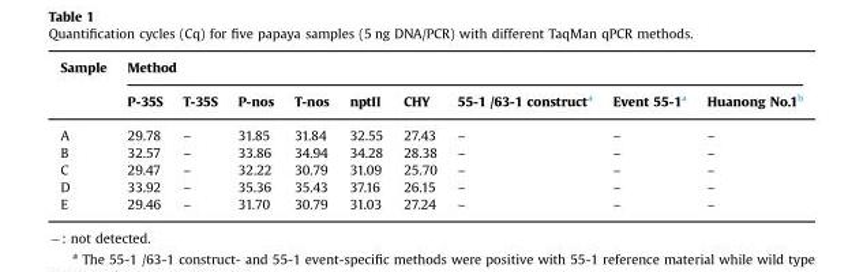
<table><thead><tr><td rowspan="2">Sample</td><td colspan="9">Method</td></tr><tr><td>P-35S</td><td>T-35S</td><td>P-nos</td><td>T-nos</td><td>nptII</td><td>CHY</td><td>55-1 /63-1 construct<sup>a</sup></td><td>Event 55-1<sup>a</sup></td><td>Huanong No.1<sup>b</sup></td></tr></thead><tbody><tr><td>A</td><td>29.78</td><td>–</td><td>31.85</td><td>31.84</td><td>32.55</td><td>27.43</td><td>–</td><td>–</td><td>–</td></tr><tr><td>B</td><td>32.57</td><td>–</td><td>33.86</td><td>34.94</td><td>34.28</td><td>28.38</td><td>–</td><td>–</td><td>–</td></tr><tr><td>C</td><td>29.47</td><td>–</td><td>32.22</td><td>30.79</td><td>31.09</td><td>25.70</td><td>–</td><td>–</td><td>–</td></tr><tr><td>D</td><td>33.92</td><td>–</td><td>35.36</td><td>35.43</td><td>37.16</td><td>26.15</td><td>–</td><td>–</td><td>–</td></tr><tr><td>E</td><td>29.46</td><td>–</td><td>31.70</td><td>30.79</td><td>31.03</td><td>27.24</td><td>–</td><td>–</td><td>–</td></tr></tbody></table>